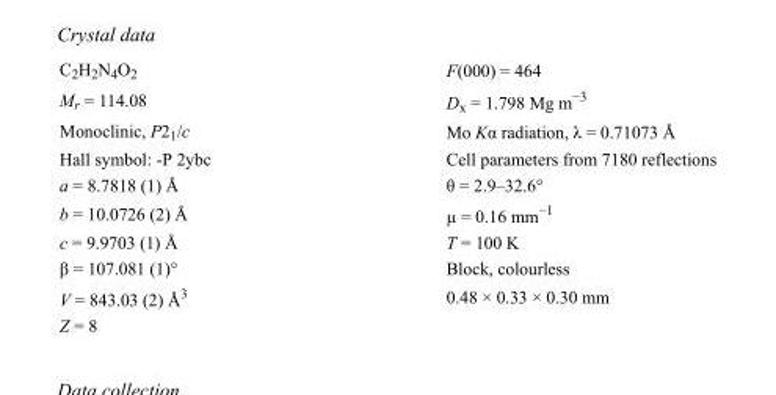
<table><tbody><tr><td>C<sub>2</sub>H<sub>2</sub>N<sub>4</sub>O<sub>2</sub></td><td>F(000) = 464</td></tr><tr><td>M<sub>r</sub> = 114.08</td><td>D<sub>x</sub> = 1.798 Mg m<sup>−3</sup></td></tr><tr><td>Monoclinic, P2<sub>1</sub>/c</td><td>Mo Kα radiation, λ = 0.71073 Å</td></tr><tr><td>Hall symbol: -P 2ybc</td><td>Cell parameters from 7180 reflections</td></tr><tr><td>a = 8.7818 (1) Å</td><td>θ = 2.9–32.6°</td></tr><tr><td>b = 10.0726 (2) Å</td><td>µ = 0.16 mm<sup>−1</sup></td></tr><tr><td>c = 9.9703 (1) Å</td><td>T = 100 K</td></tr><tr><td>β = 107.081 (1)°</td><td>Block, colourless</td></tr><tr><td>V = 843.03 (2) Å<sup>3</sup></td><td>0.48 × 0.33 × 0.30 mm</td></tr><tr><td>Z = 8</td><td></td></tr></tbody></table>